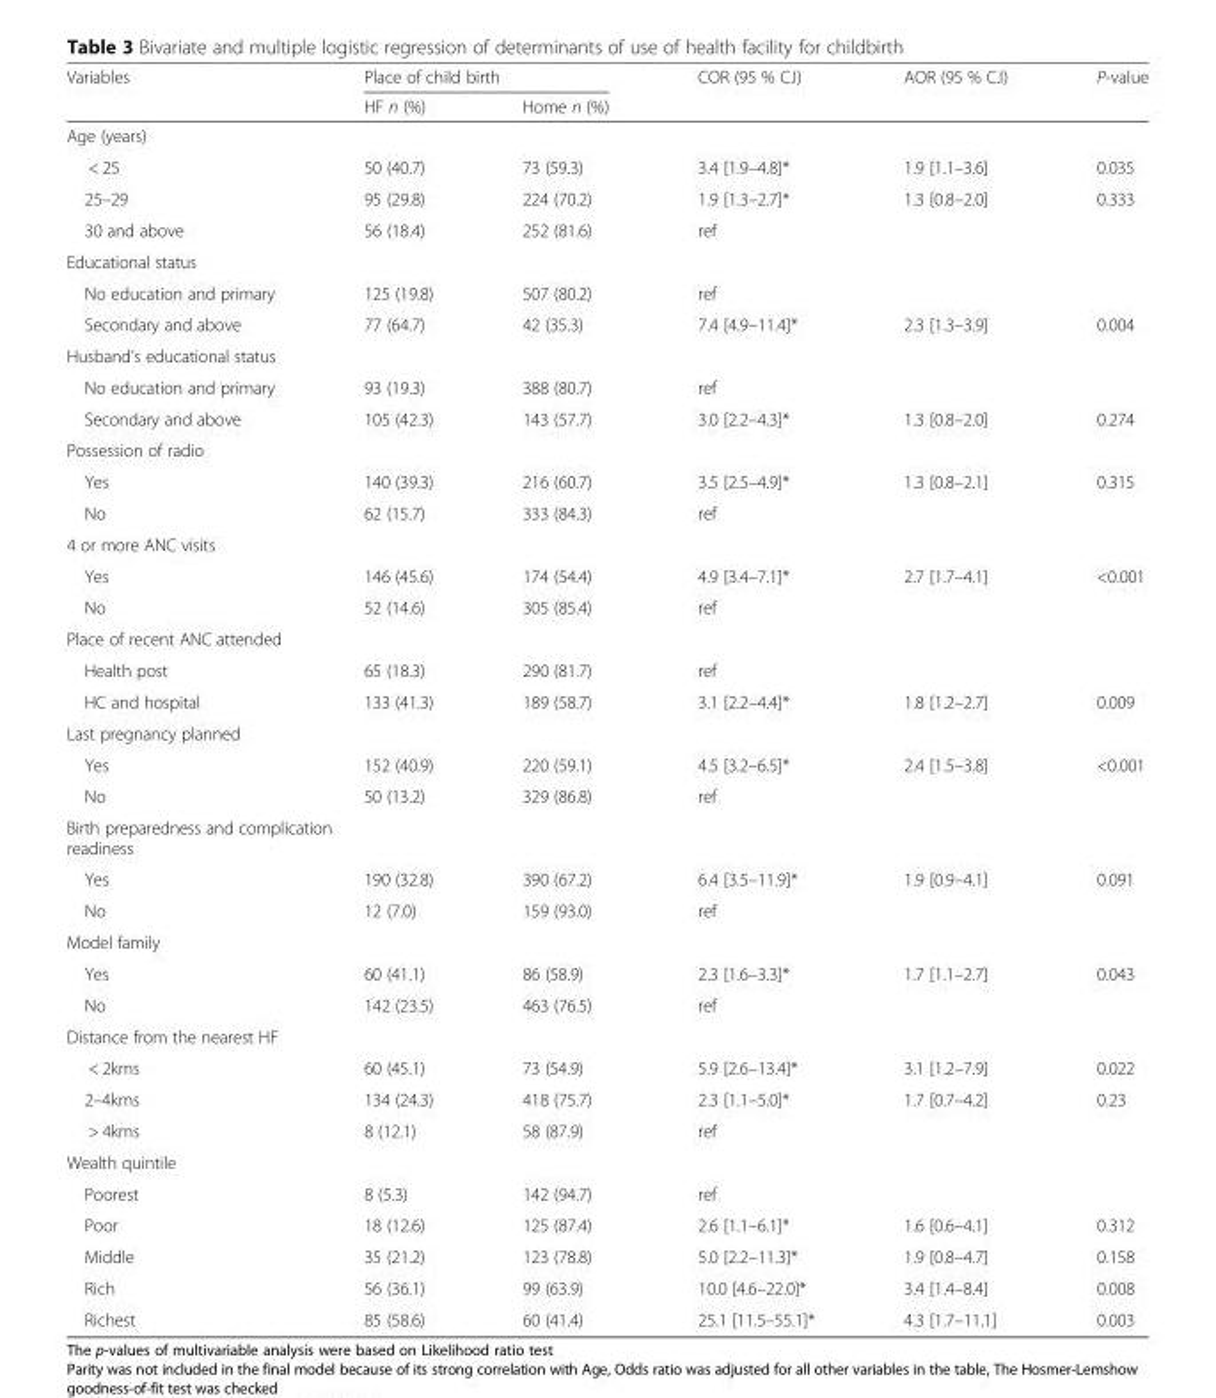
<table><thead><tr><td rowspan="2">Variables</td><td colspan="2">Place of child birth</td><td rowspan="2">COR (95 % C.I)</td><td rowspan="2">AOR (95 % C.I)</td><td rowspan="2">P-value</td></tr><tr><td>HF n (%)</td><td>Home n (%)</td></tr></thead><tbody><tr><td colspan="6">Age (years)</td></tr><tr><td>&lt; 25</td><td>50 (40.7)</td><td>73 (59.3)</td><td>3.4 [1.9–4.8]*</td><td>1.9 [1.1–3.6]</td><td>0.035</td></tr><tr><td>25–29</td><td>95 (29.8)</td><td>224 (70.2)</td><td>1.9 [1.3–2.7]*</td><td>1.3 [0.8–2.0]</td><td>0.333</td></tr><tr><td>30 and above</td><td>56 (18.4)</td><td>252 (81.6)</td><td>ref</td><td></td><td></td></tr><tr><td colspan="6">Educational status</td></tr><tr><td>No education and primary</td><td>125 (19.8)</td><td>507 (80.2)</td><td>ref</td><td></td><td></td></tr><tr><td>Secondary and above</td><td>77 (64.7)</td><td>42 (35.3)</td><td>7.4 [4.9–11.4]*</td><td>2.3 [1.3–3.9]</td><td>0.004</td></tr><tr><td colspan="6">Husband’s educational status</td></tr><tr><td>No education and primary</td><td>93 (19.3)</td><td>388 (80.7)</td><td>ref</td><td></td><td></td></tr><tr><td>Secondary and above</td><td>105 (42.3)</td><td>143 (57.7)</td><td>3.0 [2.2–4.3]*</td><td>1.3 [0.8–2.0]</td><td>0.274</td></tr><tr><td colspan="6">Possession of radio</td></tr><tr><td>Yes</td><td>140 (39.3)</td><td>216 (60.7)</td><td>3.5 [2.5–4.9]*</td><td>1.3 [0.8–2.1]</td><td>0.315</td></tr><tr><td>No</td><td>62 (15.7)</td><td>333 (84.3)</td><td>ref</td><td></td><td></td></tr><tr><td colspan="6">4 or more ANC visits</td></tr><tr><td>Yes</td><td>146 (45.6)</td><td>174 (54.4)</td><td>4.9 [3.4–7.1]*</td><td>2.7 [1.7–4.1]</td><td>&lt;0.001</td></tr><tr><td>No</td><td>52 (14.6)</td><td>305 (85.4)</td><td>ref</td><td></td><td></td></tr><tr><td colspan="6">Place of recent ANC attended</td></tr><tr><td>Health post</td><td>65 (18.3)</td><td>290 (81.7)</td><td>ref</td><td></td><td></td></tr><tr><td>HC and hospital</td><td>133 (41.3)</td><td>189 (58.7)</td><td>3.1 [2.2–4.4]*</td><td>1.8 [1.2–2.7]</td><td>0.009</td></tr><tr><td colspan="6">Last pregnancy planned</td></tr><tr><td>Yes</td><td>152 (40.9)</td><td>220 (59.1)</td><td>4.5 [3.2–6.5]*</td><td>2.4 [1.5–3.8]</td><td>&lt;0.001</td></tr><tr><td>No</td><td>50 (13.2)</td><td>329 (86.8)</td><td>ref</td><td></td><td></td></tr><tr><td colspan="6">Birth preparedness and complication readiness</td></tr><tr><td>Yes</td><td>190 (32.8)</td><td>390 (67.2)</td><td>6.4 [3.5–11.9]*</td><td>1.9 [0.9–4.1]</td><td>0.091</td></tr><tr><td>No</td><td>12 (7.0)</td><td>159 (93.0)</td><td>ref</td><td></td><td></td></tr><tr><td colspan="6">Model family</td></tr><tr><td>Yes</td><td>60 (41.1)</td><td>86 (58.9)</td><td>2.3 [1.6–3.3]*</td><td>1.7 [1.1–2.7]</td><td>0.043</td></tr><tr><td>No</td><td>142 (23.5)</td><td>463 (76.5)</td><td>ref</td><td></td><td></td></tr><tr><td colspan="6">Distance from the nearest HF</td></tr><tr><td>&lt; 2kms</td><td>60 (45.1)</td><td>73 (54.9)</td><td>5.9 [2.6–13.4]*</td><td>3.1 [1.2–7.9]</td><td>0.022</td></tr><tr><td>2–4kms</td><td>134 (24.3)</td><td>418 (75.7)</td><td>2.3 [1.1–5.0]*</td><td>1.7 [0.7–4.2]</td><td>0.23</td></tr><tr><td>&gt; 4kms</td><td>8 (12.1)</td><td>58 (87.9)</td><td>ref</td><td></td><td></td></tr><tr><td colspan="6">Wealth quintile</td></tr><tr><td>Poorest</td><td>8 (5.3)</td><td>142 (94.7)</td><td>ref</td><td></td><td></td></tr><tr><td>Poor</td><td>18 (12.6)</td><td>125 (87.4)</td><td>2.6 [1.1–6.1]*</td><td>1.6 [0.6–4.1]</td><td>0.312</td></tr><tr><td>Middle</td><td>35 (21.2)</td><td>123 (78.8)</td><td>5.0 [2.2–11.3]*</td><td>1.9 [0.8–4.7]</td><td>0.158</td></tr><tr><td>Rich</td><td>56 (36.1)</td><td>99 (63.9)</td><td>10.0 [4.6–22.0]*</td><td>3.4 [1.4–8.4]</td><td>0.008</td></tr><tr><td>Richest</td><td>85 (58.6)</td><td>60 (41.4)</td><td>25.1 [11.5–55.1]*</td><td>4.3 [1.7–11.1]</td><td>0.003</td></tr></tbody></table>